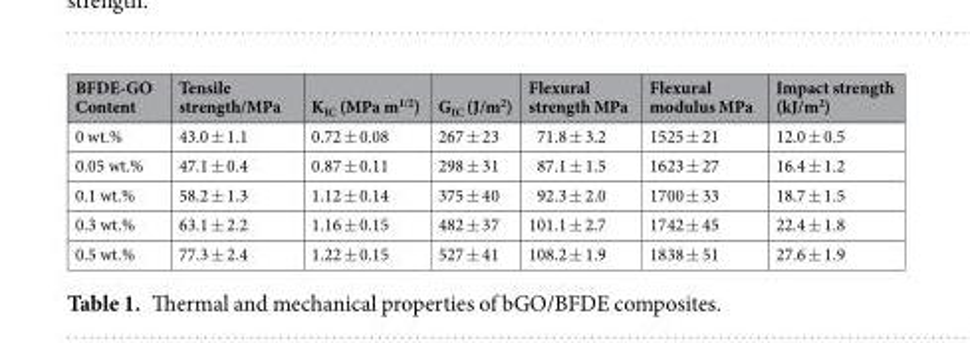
<table><thead><tr><td>BFDE-GO Content</td><td>Tensile strength/MPa</td><td>K<sub>IC</sub> (MPa m<sup>1/2</sup>)</td><td>G<sub>IC</sub> (J/m<sup>2</sup>)</td><td>Flexural strength MPa</td><td>Flexural modulus MPa</td><td>Impact strength (kJ/m<sup>2</sup>)</td></tr></thead><tbody><tr><td>0 wt.%</td><td>43.0 ± 1.1</td><td>0.72 ± 0.08</td><td>267 ± 23</td><td>71.8 ± 3.2</td><td>1525 ± 21</td><td>12.0 ± 0.5</td></tr><tr><td>0.05 wt.%</td><td>47.1 ± 0.4</td><td>0.87 ± 0.11</td><td>298 ± 31</td><td>87.1 ± 1.5</td><td>1623 ± 27</td><td>16.4 ± 1.2</td></tr><tr><td>0.1 wt.%</td><td>58.2 ± 1.3</td><td>1.12 ± 0.14</td><td>375 ± 40</td><td>92.3 ± 2.0</td><td>1700 ± 33</td><td>18.7 ± 1.5</td></tr><tr><td>0.3 wt.%</td><td>63.1 ± 2.2</td><td>1.16 ± 0.15</td><td>482 ± 37</td><td>101.1 ± 2.7</td><td>1742 ± 45</td><td>22.4 ± 1.8</td></tr><tr><td>0.5 wt.%</td><td>77.3 ± 2.4</td><td>1.22 ± 0.15</td><td>527 ± 41</td><td>108.2 ± 1.9</td><td>1838 ± 51</td><td>27.6 ± 1.9</td></tr></tbody></table>